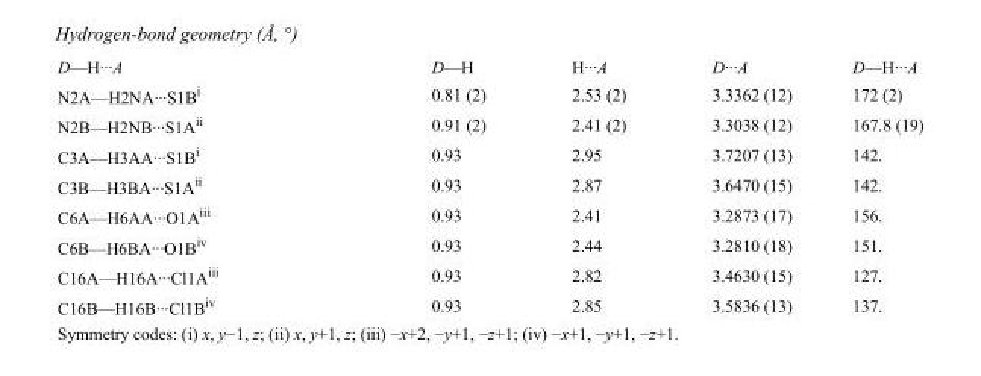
<table><tbody><tr><td>D—H···A</td><td>D—H</td><td>H···A</td><td>D···A</td><td>D—H···A</td></tr><tr><td>N2A—H2NA···S1B<sup>i</sup></td><td>0.81 (2)</td><td>2.53 (2)</td><td>3.3362 (12)</td><td>172 (2)</td></tr><tr><td>N2B—H2NB···S1A<sup>ii</sup></td><td>0.91 (2)</td><td>2.41 (2)</td><td>3.3038 (12)</td><td>167.8 (19)</td></tr><tr><td>C3A—H3AA···S1B<sup>i</sup></td><td>0.93</td><td>2.95</td><td>3.7207 (13)</td><td>142.</td></tr><tr><td>C3B—H3BA···S1A<sup>ii</sup></td><td>0.93</td><td>2.87</td><td>3.6470 (15)</td><td>142.</td></tr><tr><td>C6A—H6AA···O1A<sup>iii</sup></td><td>0.93</td><td>2.41</td><td>3.2873 (17)</td><td>156.</td></tr><tr><td>C6B—H6BA···O1B<sup>iv</sup></td><td>0.93</td><td>2.44</td><td>3.2810 (18)</td><td>151.</td></tr><tr><td>C16A—H16A···Cl1A<sup>iii</sup></td><td>0.93</td><td>2.82</td><td>3.4630 (15)</td><td>127.</td></tr><tr><td>C16B—H16B···Cl1B<sup>iv</sup></td><td>0.93</td><td>2.85</td><td>3.5836 (13)</td><td>137.</td></tr></tbody></table>